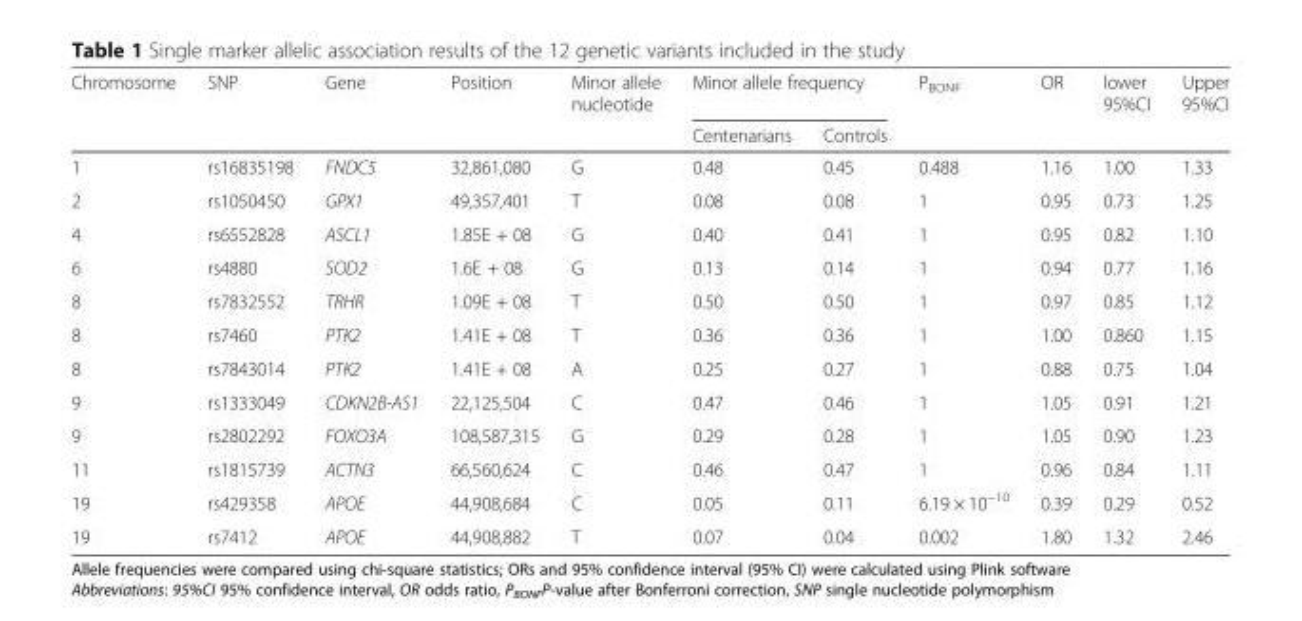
<table><thead><tr><td rowspan="2">Chromosome</td><td rowspan="2">SNP</td><td rowspan="2">Gene</td><td rowspan="2">Position</td><td rowspan="2">Minor allele nucleotide</td><td colspan="2">Minor allele frequency</td><td rowspan="2">P<sub>BONF</sub></td><td rowspan="2">OR</td><td rowspan="2">lower 95%CI</td><td rowspan="2">Upper 95%CI</td></tr><tr><td>Centenarians</td><td>Controls</td></tr></thead><tbody><tr><td>1</td><td>rs16835198</td><td>FNDC5</td><td>32,861,080</td><td>G</td><td>0.48</td><td>0.45</td><td>0.488</td><td>1.16</td><td>1.00</td><td>1.33</td></tr><tr><td>2</td><td>rs1050450</td><td>GPX1</td><td>49,357,401</td><td>T</td><td>0.08</td><td>0.08</td><td>1</td><td>0.95</td><td>0.73</td><td>1.25</td></tr><tr><td>4</td><td>rs6552828</td><td>ASCL1</td><td>1.85E + 08</td><td>G</td><td>0.40</td><td>0.41</td><td>1</td><td>0.95</td><td>0.82</td><td>1.10</td></tr><tr><td>6</td><td>rs4880</td><td>SOD2</td><td>1.6E + 08</td><td>G</td><td>0.13</td><td>0.14</td><td>1</td><td>0.94</td><td>0.77</td><td>1.16</td></tr><tr><td>8</td><td>rs7832552</td><td>TRHR</td><td>1.09E + 08</td><td>T</td><td>0.50</td><td>0.50</td><td>1</td><td>0.97</td><td>0.85</td><td>1.12</td></tr><tr><td>8</td><td>rs7460</td><td>PTK2</td><td>1.41E + 08</td><td>T</td><td>0.36</td><td>0.36</td><td>1</td><td>1.00</td><td>0.860</td><td>1.15</td></tr><tr><td>8</td><td>rs7843014</td><td>PTK2</td><td>1.41E + 08</td><td>A</td><td>0.25</td><td>0.27</td><td>1</td><td>0.88</td><td>0.75</td><td>1.04</td></tr><tr><td>9</td><td>rs1333049</td><td>CDKN2B-AS1</td><td>22,125,504</td><td>C</td><td>0.47</td><td>0.46</td><td>1</td><td>1.05</td><td>0.91</td><td>1.21</td></tr><tr><td>9</td><td>rs2802292</td><td>FOXO3A</td><td>108,587,315</td><td>G</td><td>0.29</td><td>0.28</td><td>1</td><td>1.05</td><td>0.90</td><td>1.23</td></tr><tr><td>11</td><td>rs1815739</td><td>ACTN3</td><td>66,560,624</td><td>C</td><td>0.46</td><td>0.47</td><td>1</td><td>0.96</td><td>0.84</td><td>1.11</td></tr><tr><td>19</td><td>rs429358</td><td>APOE</td><td>44,908,684</td><td>C</td><td>0.05</td><td>0.11</td><td>6.19 × 10<sup>−10</sup></td><td>0.39</td><td>0.29</td><td>0.52</td></tr><tr><td>19</td><td>rs7412</td><td>APOE</td><td>44,908,882</td><td>T</td><td>0.07</td><td>0.04</td><td>0.002</td><td>1.80</td><td>1.32</td><td>2.46</td></tr></tbody></table>